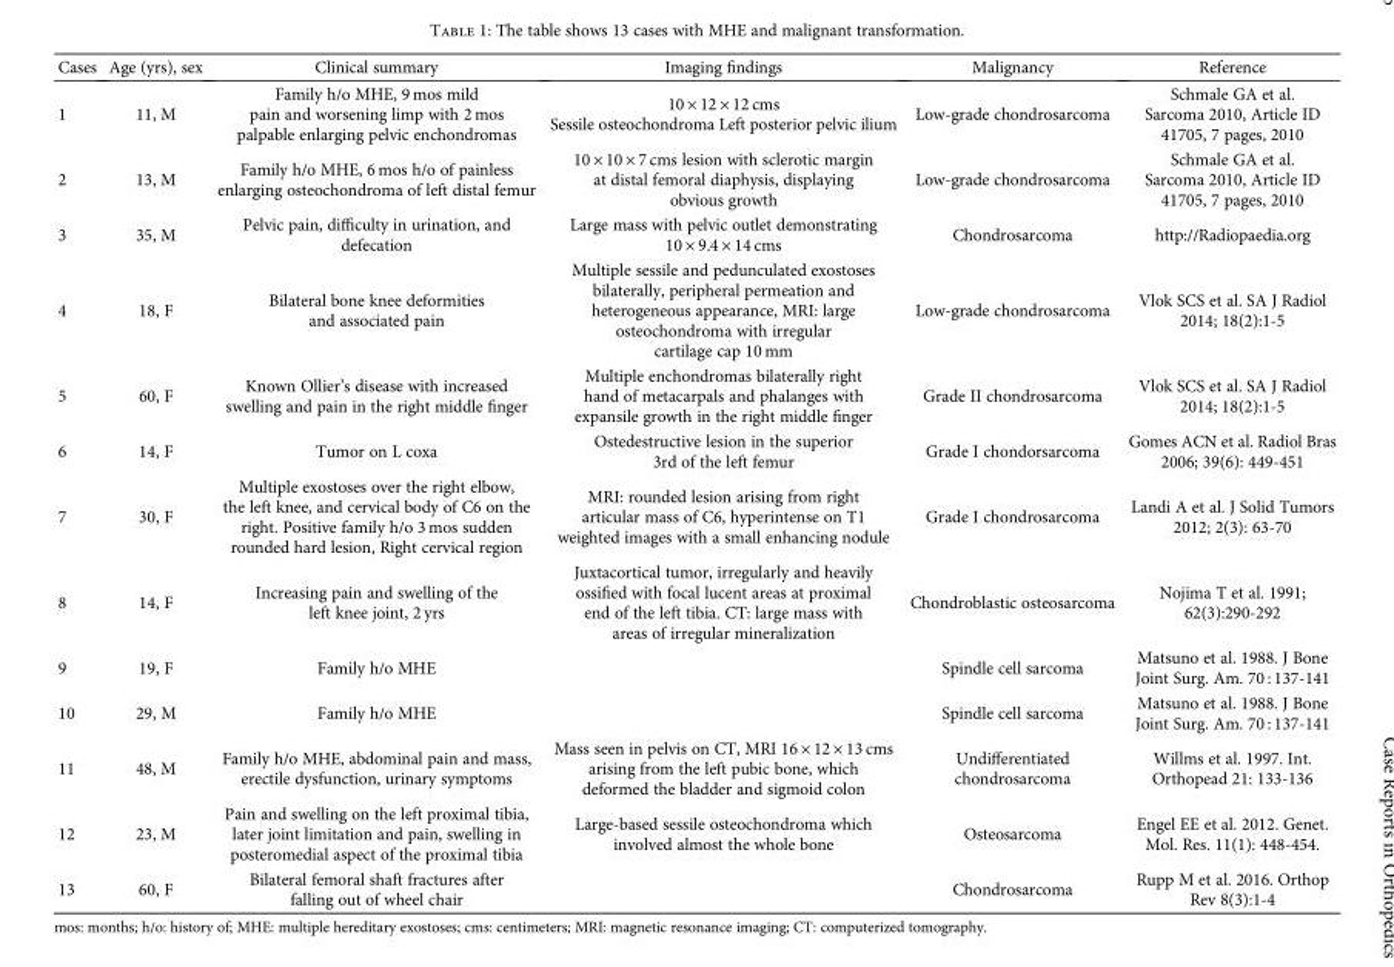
<table><thead><tr><td>Cases</td><td>Age (yrs), sex</td><td>Clinical summary</td><td>Imaging findings</td><td>Malignancy</td><td>Reference</td></tr></thead><tbody><tr><td>1</td><td>11, M</td><td>Family h/o MHE, 9 mos mild pain and worsening limp with 2 mos palpable enlarging pelvic enchondromas</td><td>10 × 12 × 12 cms Sessile osteochondroma Left posterior pelvic ilium</td><td>Low-grade chondrosarcoma</td><td>Schmale GA et al. Sarcoma 2010, Article ID 41705, 7 pages, 2010</td></tr><tr><td>2</td><td>13, M</td><td>Family h/o MHE, 6 mos h/o of painless enlarging osteochondroma of left distal femur</td><td>10 × 10 × 7 cms lesion with sclerotic margin at distal femoral diaphysis, displaying obvious growth</td><td>Low-grade chondrosarcoma</td><td>Schmale GA et al. Sarcoma 2010, Article ID 41705, 7 pages, 2010</td></tr><tr><td>3</td><td>35, M</td><td>Pelvic pain, difficulty in urination, and defecation</td><td>Large mass with pelvic outlet demonstrating 10 × 9.4 × 14 cms</td><td>Chondrosarcoma</td><td>http://Radiopaedia.org</td></tr><tr><td>4</td><td>18, F</td><td>Bilateral bone knee deformities and associated pain</td><td>Multiple sessile and pedunculated exostoses bilaterally, peripheral permeation and heterogeneous appearance, MRI: large osteochondroma with irregular cartilage cap 10 mm</td><td>Low-grade chondrosarcoma</td><td>Vlok SCS et al. SA J Radiol 2014; 18(2):1-5</td></tr><tr><td>5</td><td>60, F</td><td>Known Ollier’s disease with increased swelling and pain in the right middle finger</td><td>Multiple enchondromas bilaterally right hand of metacarpals and phalanges with expansile growth in the right middle finger</td><td>Grade II chondrosarcoma</td><td>Vlok SCS et al. SA J Radiol 2014; 18(2):1-5</td></tr><tr><td>6</td><td>14, F</td><td>Tumor on L coxa</td><td>Ostedestructive lesion in the superior 3rd of the left femur</td><td>Grade I chondorsarcoma</td><td>Gomes ACN et al. Radiol Bras 2006; 39(6): 449-451</td></tr><tr><td>7</td><td>30, F</td><td>Multiple exostoses over the right elbow, the left knee, and cervical body of C6 on the right. Positive family h/o 3 mos sudden rounded hard lesion, Right cervical region</td><td>MRI: rounded lesion arising from right articular mass of C6, hyperintense on T1 weighted images with a small enhancing nodule</td><td>Grade I chondrosarcoma</td><td>Landi A et al. J Solid Tumors 2012; 2(3): 63-70</td></tr><tr><td>8</td><td>14, F</td><td>Increasing pain and swelling of the left knee joint, 2 yrs</td><td>Juxtacortical tumor, irregularly and heavily ossified with focal lucent areas at proximal end of the left tibia. CT: large mass with areas of irregular mineralization</td><td>Chondroblastic osteosarcoma</td><td>Nojima T et al. 1991; 62(3):290-292</td></tr><tr><td>9</td><td>19, F</td><td>Family h/o MHE</td><td></td><td>Spindle cell sarcoma</td><td>Matsuno et al. 1988. J Bone Joint Surg. Am. 70 : 137-141</td></tr><tr><td>10</td><td>29, M</td><td>Family h/o MHE</td><td></td><td>Spindle cell sarcoma</td><td>Matsuno et al. 1988. J Bone Joint Surg. Am. 70 : 137-141</td></tr><tr><td>11</td><td>48, M</td><td>Family h/o MHE, abdominal pain and mass, erectile dysfunction, urinary symptoms</td><td>Mass seen in pelvis on CT, MRI 16 × 12 × 13 cms arising from the left pubic bone, which deformed the bladder and sigmoid colon</td><td>Undifferentiated chondrosarcoma</td><td>Willms et al. 1997. Int. Orthopead 21: 133-136</td></tr><tr><td>12</td><td>23, M</td><td>Pain and swelling on the left proximal tibia, later joint limitation and pain, swelling in posteromedial aspect of the proximal tibia</td><td>Large-based sessile osteochondroma which involved almost the whole bone</td><td>Osteosarcoma</td><td>Engel EE et al. 2012. Genet. Mol. Res. 11(1): 448-454.</td></tr><tr><td>13</td><td>60, F</td><td>Bilateral femoral shaft fractures after falling out of wheel chair</td><td></td><td>Chondrosarcoma</td><td>Rupp M et al. 2016. Orthop Rev 8(3):1-4</td></tr></tbody></table>